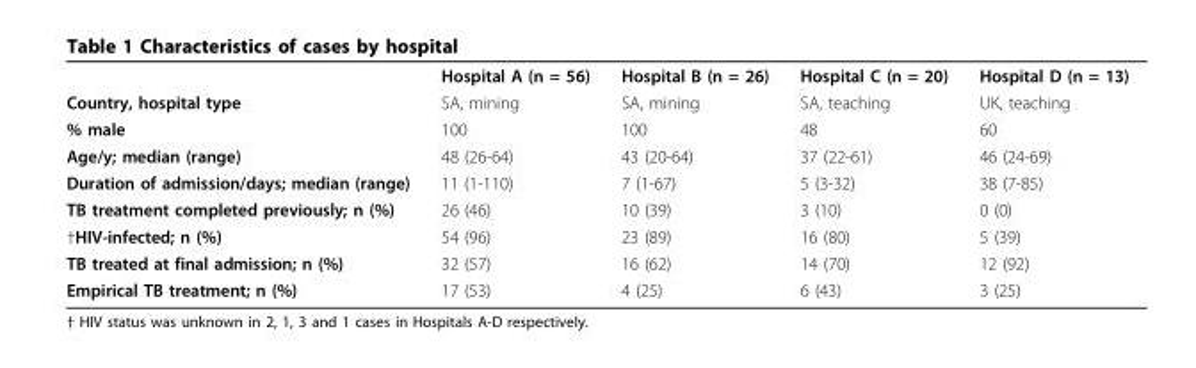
<table><thead><tr><td></td><td>Hospital A (n = 56)</td><td>Hospital B (n = 26)</td><td>Hospital C (n = 20)</td><td>Hospital D (n = 13)</td></tr></thead><tbody><tr><td>Country, hospital type</td><td>SA, mining</td><td>SA, mining</td><td>SA, teaching</td><td>UK, teaching</td></tr><tr><td>% male</td><td>100</td><td>100</td><td>48</td><td>60</td></tr><tr><td>Age/y; median (range)</td><td>48 (26-64)</td><td>43 (20-64)</td><td>37 (22-61)</td><td>46 (24-69)</td></tr><tr><td>Duration of admission/days; median (range)</td><td>11 (1-110)</td><td>7 (1-67)</td><td>5 (3-32)</td><td>38 (7-85)</td></tr><tr><td>TB treatment completed previously; n (%)</td><td>26 (46)</td><td>10 (39)</td><td>3 (10)</td><td>0 (0)</td></tr><tr><td>†HIV-infected; n (%)</td><td>54 (96)</td><td>23 (89)</td><td>16 (80)</td><td>5 (39)</td></tr><tr><td>TB treated at final admission; n (%)</td><td>32 (57)</td><td>16 (62)</td><td>14 (70)</td><td>12 (92)</td></tr><tr><td>Empirical TB treatment; n (%)</td><td>17 (53)</td><td>4 (25)</td><td>6 (43)</td><td>3 (25)</td></tr></tbody></table>